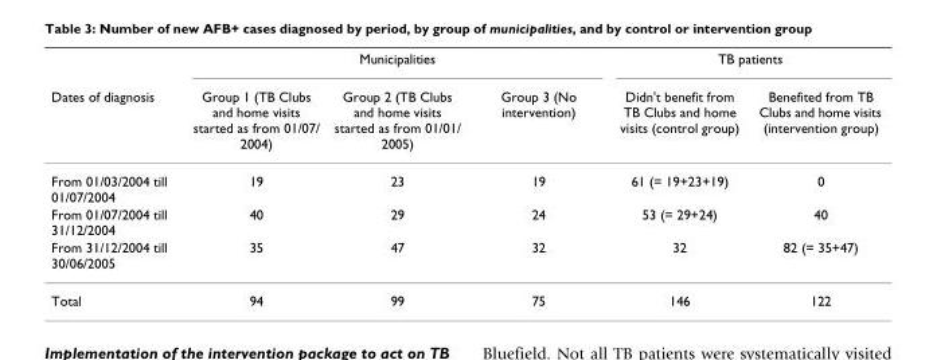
<table><thead><tr><td rowspan="2">Dates of diagnosis</td><td colspan="3">Municipalities</td><td colspan="2">TB patients</td></tr><tr><td>Group 1 (TB Clubs and home visits started as from 01/07/ 2004)</td><td>Group 2 (TB Clubs and home visits started as from 01/01/ 2005)</td><td>Group 3 (No intervention)</td><td>Didn&#x27;t benefit from TB Clubs and home visits (control group)</td><td>Benefited from TB Clubs and home visits (intervention group)</td></tr></thead><tbody><tr><td>From 01/03/2004 till 01/07/2004</td><td>19</td><td>23</td><td>19</td><td>61 (= 19+23+19)</td><td>0</td></tr><tr><td>From 01/07/2004 till 31/12/2004</td><td>40</td><td>29</td><td>24</td><td>53 (= 29+24)</td><td>40</td></tr><tr><td>From 31/12/2004 till 30/06/2005</td><td>35</td><td>47</td><td>32</td><td>32</td><td>82 (= 35+47)</td></tr><tr><td>Total</td><td>94</td><td>99</td><td>75</td><td>146</td><td>122</td></tr></tbody></table>